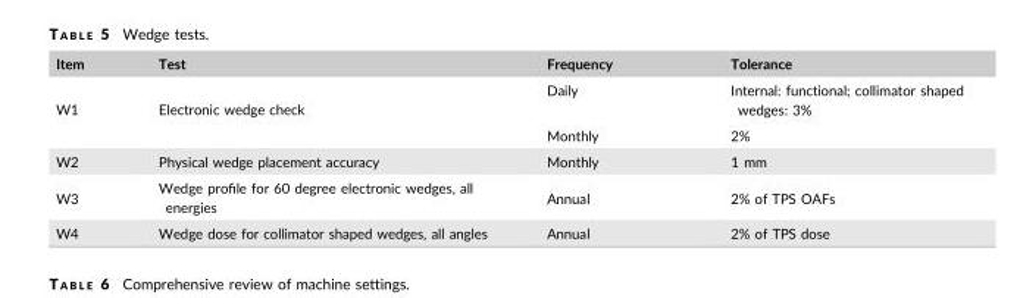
<table><thead><tr><td>Item</td><td>Test</td><td>Frequency</td><td>Tolerance</td></tr></thead><tbody><tr><td rowspan="2">W1</td><td rowspan="2">Electronic wedge check</td><td>Daily</td><td>Internal: functional; collimator shaped wedges: 3%</td></tr><tr><td>Monthly</td><td>2%</td></tr><tr><td>W2</td><td>Physical wedge placement accuracy</td><td>Monthly</td><td>1 mm</td></tr><tr><td>W3</td><td>Wedge profile for 60 degree electronic wedges, all energies</td><td>Annual</td><td>2% of TPS OAFs</td></tr><tr><td>W4</td><td>Wedge dose for collimator shaped wedges, all angles</td><td>Annual</td><td>2% of TPS dose</td></tr></tbody></table>